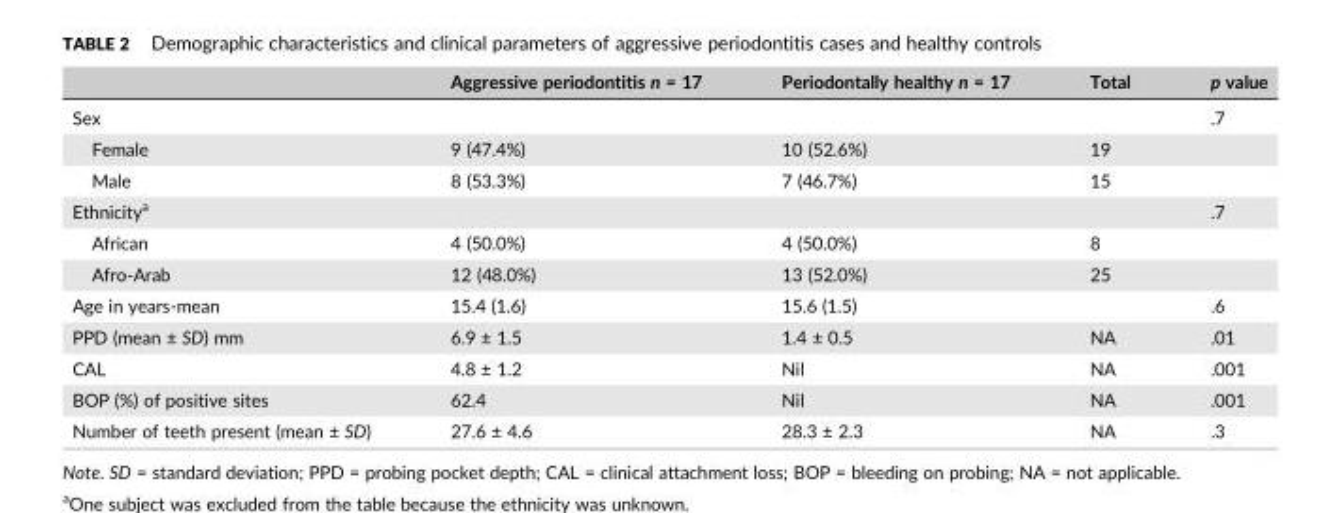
<table><thead><tr><td></td><td>Aggressive periodontitis n = 17</td><td>Periodontally healthy n = 17</td><td>Total</td><td>p value</td></tr></thead><tbody><tr><td>Sex</td><td></td><td></td><td></td><td>.7</td></tr><tr><td>Female</td><td>9 (47.4%)</td><td>10 (52.6%)</td><td>19</td><td></td></tr><tr><td>Male</td><td>8 (53.3%)</td><td>7 (46.7%)</td><td>15</td><td></td></tr><tr><td>Ethnicity<sup>a</sup></td><td></td><td></td><td></td><td>.7</td></tr><tr><td>African</td><td>4 (50.0%)</td><td>4 (50.0%)</td><td>8</td><td></td></tr><tr><td>Afro‐Arab</td><td>12 (48.0%)</td><td>13 (52.0%)</td><td>25</td><td></td></tr><tr><td>Age in years‐mean</td><td>15.4 (1.6)</td><td>15.6 (1.5)</td><td></td><td>.6</td></tr><tr><td>PPD (mean ± SD) mm</td><td>6.9 ± 1.5</td><td>1.4 ± 0.5</td><td>NA</td><td>.01</td></tr><tr><td>CAL</td><td>4.8 ± 1.2</td><td>Nil</td><td>NA</td><td>.001</td></tr><tr><td>BOP (%) of positive sites</td><td>62.4</td><td>Nil</td><td>NA</td><td>.001</td></tr><tr><td>Number of teeth present (mean ± SD)</td><td>27.6 ± 4.6</td><td>28.3 ± 2.3</td><td>NA</td><td>.3</td></tr></tbody></table>